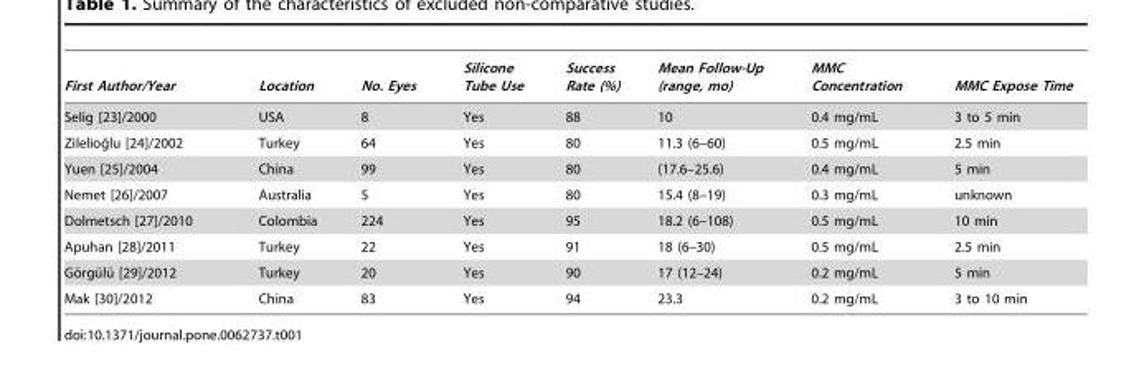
<table><thead><tr><td>First Author/Year</td><td>Location</td><td>No. Eyes</td><td>Silicone Tube Use</td><td>Success Rate (%)</td><td>Mean Follow-Up (range, mo)</td><td>MMC Concentration</td><td>MMC Expose Time</td></tr></thead><tbody><tr><td>Selig [23]/2000</td><td>USA</td><td>8</td><td>Yes</td><td>88</td><td>10</td><td>0.4 mg/mL</td><td>3 to 5 min</td></tr><tr><td>Zileliog˘lu [24]/2002</td><td>Turkey</td><td>64</td><td>Yes</td><td>80</td><td>11.3 (6–60)</td><td>0.5 mg/mL</td><td>2.5 min</td></tr><tr><td>Yuen [25]/2004</td><td>China</td><td>99</td><td>Yes</td><td>80</td><td>(17.6–25.6)</td><td>0.4 mg/mL</td><td>5 min</td></tr><tr><td>Nemet [26]/2007</td><td>Australia</td><td>5</td><td>Yes</td><td>80</td><td>15.4 (8–19)</td><td>0.3 mg/mL</td><td>unknown</td></tr><tr><td>Dolmetsch [27]/2010</td><td>Colombia</td><td>224</td><td>Yes</td><td>95</td><td>18.2 (6–108)</td><td>0.5 mg/mL</td><td>10 min</td></tr><tr><td>Apuhan [28]/2011</td><td>Turkey</td><td>22</td><td>Yes</td><td>91</td><td>18 (6–30)</td><td>0.5 mg/mL</td><td>2.5 min</td></tr><tr><td>Go¨rgu¨lu¨ [29]/2012</td><td>Turkey</td><td>20</td><td>Yes</td><td>90</td><td>17 (12–24)</td><td>0.2 mg/mL</td><td>5 min</td></tr><tr><td>Mak [30]/2012</td><td>China</td><td>83</td><td>Yes</td><td>94</td><td>23.3</td><td>0.2 mg/mL</td><td>3 to 10 min</td></tr></tbody></table>